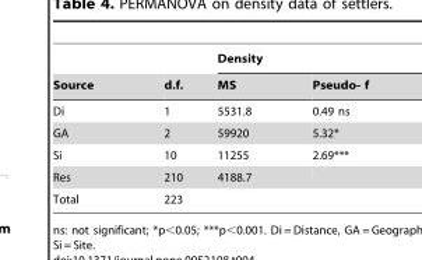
<table><thead><tr><td rowspan="2">Source</td><td rowspan="2">d.f.</td><td colspan="2">Density</td></tr><tr><td>MS</td><td>Pseudo- f</td></tr></thead><tbody><tr><td>Di</td><td>1</td><td>5531.8</td><td>0.49 ns</td></tr><tr><td>GA</td><td>2</td><td>59920</td><td>5.32*</td></tr><tr><td>Si</td><td>10</td><td>11255</td><td>2.69***</td></tr><tr><td>Res</td><td>210</td><td>4188.7</td><td></td></tr><tr><td>Total</td><td>223</td><td></td><td></td></tr></tbody></table>